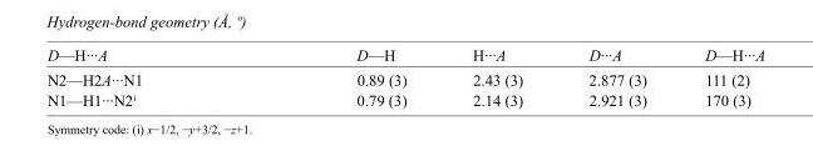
<table><tbody><tr><td>D—H···A</td><td>D—H</td><td>H···A</td><td>D···A</td><td>D—H···A</td></tr><tr><td>N2—H2A···N1</td><td>0.89 (3)</td><td>2.43 (3)</td><td>2.877 (3)</td><td>111 (2)</td></tr><tr><td>N1—H1···N2<sup>i</sup></td><td>0.79 (3)</td><td>2.14 (3)</td><td>2.921 (3)</td><td>170 (3)</td></tr></tbody></table>